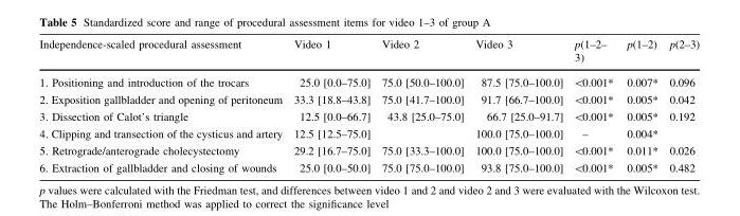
<table><thead><tr><td>Independence-scaled procedural assessment</td><td>Video 1</td><td>Video 2</td><td>Video 3</td><td>p(1–2– 3)</td><td>p(1–2)</td><td>p(2–3)</td></tr></thead><tbody><tr><td>1. Positioning and introduction of the trocars</td><td>25.0 [0.0–75.0]</td><td>75.0 [50.0–100.0]</td><td>87.5 [75.0–100.0]</td><td>&lt;0.001*</td><td>0.007*</td><td>0.096</td></tr><tr><td>2. Exposition gallbladder and opening of peritoneum</td><td>33.3 [18.8–43.8]</td><td>75.0 [41.7–100.0]</td><td>91.7 [66.7–100.0]</td><td>&lt;0.001*</td><td>0.005*</td><td>0.042</td></tr><tr><td>3. Dissection of Calot’s triangle</td><td>12.5 [0.0–66.7]</td><td>43.8 [25.0–75.0]</td><td>66.7 [25.0–91.7]</td><td>&lt;0.001*</td><td>0.005*</td><td>0.192</td></tr><tr><td>4. Clipping and transection of the cysticus and artery</td><td>12.5 [12.5–75.0]</td><td></td><td>100.0 [75.0–100.0]</td><td>–</td><td>0.004*</td><td></td></tr><tr><td>5. Retrograde/anterograde cholecystectomy</td><td>29.2 [16.7–75.0]</td><td>75.0 [33.3–100.0]</td><td>100.0 [75.0–100.0]</td><td>&lt;0.001*</td><td>0.011*</td><td>0.026</td></tr><tr><td>6. Extraction of gallbladder and closing of wounds</td><td>25.0 [0.0–50.0]</td><td>75.0 [75.0–100.0]</td><td>93.8 [75.0–100.0]</td><td>&lt;0.001*</td><td>0.005*</td><td>0.482</td></tr></tbody></table>